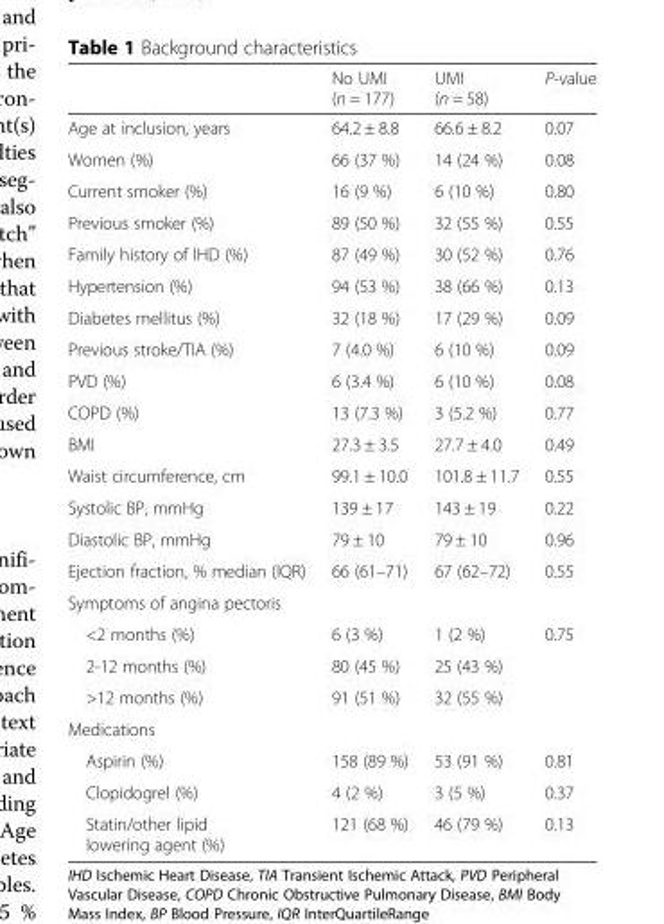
<table><thead><tr><td></td><td>No UMI (n = 177)</td><td>UMI (n = 58)</td><td>P-value</td></tr></thead><tbody><tr><td>Age at inclusion, years</td><td>64.2 ± 8.8</td><td>66.6 ± 8.2</td><td>0.07</td></tr><tr><td>Women (%)</td><td>66 (37 %)</td><td>14 (24 %)</td><td>0.08</td></tr><tr><td>Current smoker (%)</td><td>16 (9 %)</td><td>6 (10 %)</td><td>0.80</td></tr><tr><td>Previous smoker (%)</td><td>89 (50 %)</td><td>32 (55 %)</td><td>0.55</td></tr><tr><td>Family history of IHD (%)</td><td>87 (49 %)</td><td>30 (52 %)</td><td>0.76</td></tr><tr><td>Hypertension (%)</td><td>94 (53 %)</td><td>38 (66 %)</td><td>0.13</td></tr><tr><td>Diabetes mellitus (%)</td><td>32 (18 %)</td><td>17 (29 %)</td><td>0.09</td></tr><tr><td>Previous stroke/TIA (%)</td><td>7 (4.0 %)</td><td>6 (10 %)</td><td>0.09</td></tr><tr><td>PVD (%)</td><td>6 (3.4 %)</td><td>6 (10 %)</td><td>0.08</td></tr><tr><td>COPD (%)</td><td>13 (7.3 %)</td><td>3 (5.2 %)</td><td>0.77</td></tr><tr><td>BMI</td><td>27.3 ± 3.5</td><td>27.7 ± 4.0</td><td>0.49</td></tr><tr><td>Waist circumference, cm</td><td>99.1 ± 10.0</td><td>101.8 ± 11.7</td><td>0.55</td></tr><tr><td>Systolic BP, mmHg</td><td>139 ± 17</td><td>143 ± 19</td><td>0.22</td></tr><tr><td>Diastolic BP, mmHg</td><td>79 ± 10</td><td>79 ± 10</td><td>0.96</td></tr><tr><td>Ejection fraction, % median (IQR)</td><td>66 (61–71)</td><td>67 (62–72)</td><td>0.55</td></tr><tr><td colspan="4">Symptoms of angina pectoris</td></tr><tr><td>&lt;2 months (%)</td><td>6 (3 %)</td><td>1 (2 %)</td><td>0.75</td></tr><tr><td>2-12 months (%)</td><td>80 (45 %)</td><td>25 (43 %)</td><td></td></tr><tr><td>&gt;12 months (%)</td><td>91 (51 %)</td><td>32 (55 %)</td><td></td></tr><tr><td colspan="4">Medications</td></tr><tr><td>Aspirin (%)</td><td>158 (89 %)</td><td>53 (91 %)</td><td>0.81</td></tr><tr><td>Clopidogrel (%)</td><td>4 (2 %)</td><td>3 (5 %)</td><td>0.37</td></tr><tr><td>Statin/other lipid lowering agent (%)</td><td>121 (68 %)</td><td>46 (79 %)</td><td>0.13</td></tr></tbody></table>